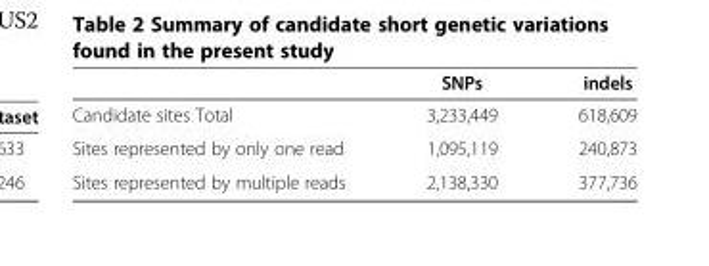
<table><thead><tr><td></td><td>SNPs</td><td>indels</td></tr></thead><tbody><tr><td>Candidate sites Total</td><td>3,233,449</td><td>618,609</td></tr><tr><td>Sites represented by only one read</td><td>1,095,119</td><td>240,873</td></tr><tr><td>Sites represented by multiple reads</td><td>2,138,330</td><td>377,736</td></tr></tbody></table>